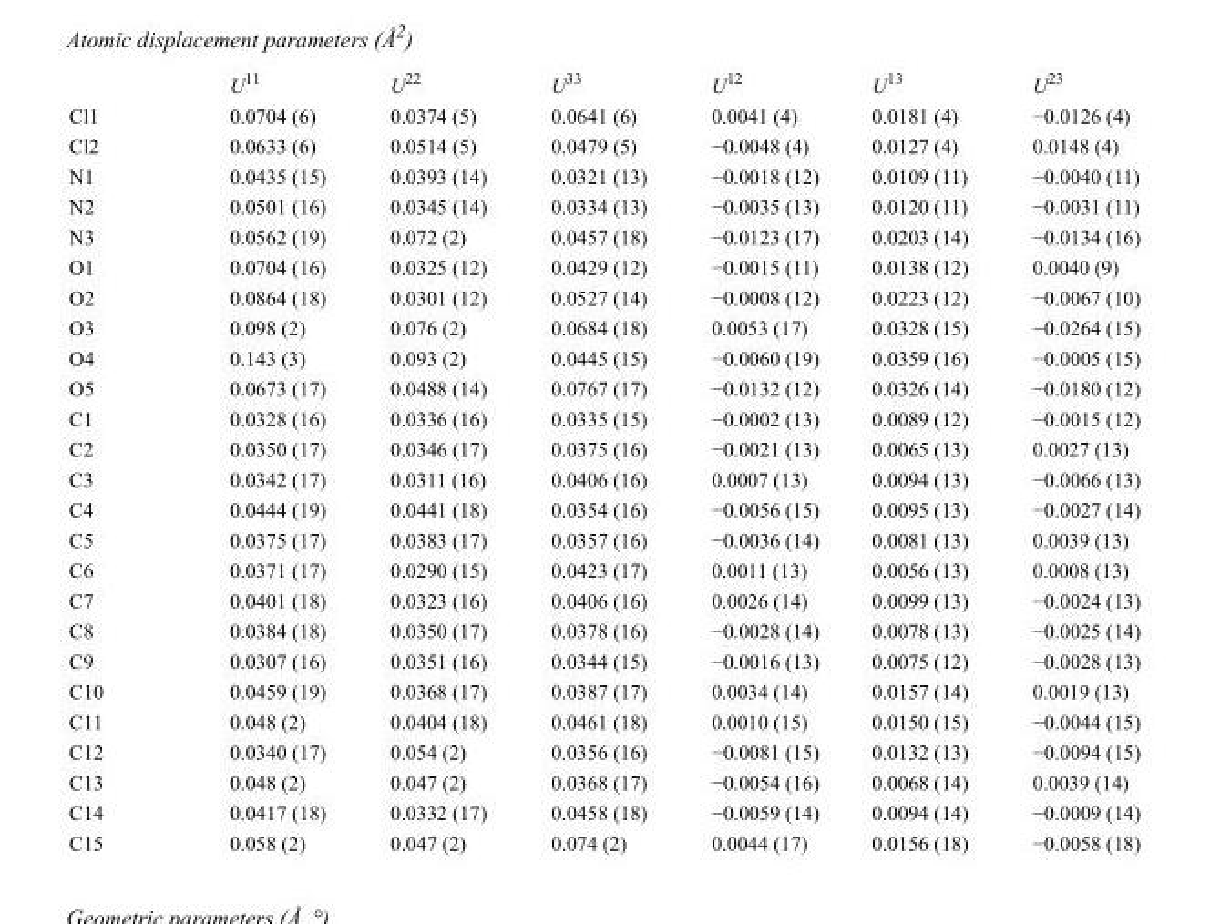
<table><thead><tr><td></td><td>U<sup>11</sup></td><td>U<sup>22</sup></td><td>U<sup>33</sup></td><td>U<sup>12</sup></td><td>U<sup>13</sup></td><td>U<sup>23</sup></td></tr></thead><tbody><tr><td>Cl1</td><td>0.0704 (6)</td><td>0.0374 (5)</td><td>0.0641 (6)</td><td>0.0041 (4)</td><td>0.0181 (4)</td><td>−0.0126 (4)</td></tr><tr><td>Cl2</td><td>0.0633 (6)</td><td>0.0514 (5)</td><td>0.0479 (5)</td><td>−0.0048 (4)</td><td>0.0127 (4)</td><td>0.0148 (4)</td></tr><tr><td>N1</td><td>0.0435 (15)</td><td>0.0393 (14)</td><td>0.0321 (13)</td><td>−0.0018 (12)</td><td>0.0109 (11)</td><td>−0.0040 (11)</td></tr><tr><td>N2</td><td>0.0501 (16)</td><td>0.0345 (14)</td><td>0.0334 (13)</td><td>−0.0035 (13)</td><td>0.0120 (11)</td><td>−0.0031 (11)</td></tr><tr><td>N3</td><td>0.0562 (19)</td><td>0.072 (2)</td><td>0.0457 (18)</td><td>−0.0123 (17)</td><td>0.0203 (14)</td><td>−0.0134 (16)</td></tr><tr><td>O1</td><td>0.0704 (16)</td><td>0.0325 (12)</td><td>0.0429 (12)</td><td>−0.0015 (11)</td><td>0.0138 (12)</td><td>0.0040 (9)</td></tr><tr><td>O2</td><td>0.0864 (18)</td><td>0.0301 (12)</td><td>0.0527 (14)</td><td>−0.0008 (12)</td><td>0.0223 (12)</td><td>−0.0067 (10)</td></tr><tr><td>O3</td><td>0.098 (2)</td><td>0.076 (2)</td><td>0.0684 (18)</td><td>0.0053 (17)</td><td>0.0328 (15)</td><td>−0.0264 (15)</td></tr><tr><td>O4</td><td>0.143 (3)</td><td>0.093 (2)</td><td>0.0445 (15)</td><td>−0.0060 (19)</td><td>0.0359 (16)</td><td>−0.0005 (15)</td></tr><tr><td>O5</td><td>0.0673 (17)</td><td>0.0488 (14)</td><td>0.0767 (17)</td><td>−0.0132 (12)</td><td>0.0326 (14)</td><td>−0.0180 (12)</td></tr><tr><td>C1</td><td>0.0328 (16)</td><td>0.0336 (16)</td><td>0.0335 (15)</td><td>−0.0002 (13)</td><td>0.0089 (12)</td><td>−0.0015 (12)</td></tr><tr><td>C2</td><td>0.0350 (17)</td><td>0.0346 (17)</td><td>0.0375 (16)</td><td>−0.0021 (13)</td><td>0.0065 (13)</td><td>0.0027 (13)</td></tr><tr><td>C3</td><td>0.0342 (17)</td><td>0.0311 (16)</td><td>0.0406 (16)</td><td>0.0007 (13)</td><td>0.0094 (13)</td><td>−0.0066 (13)</td></tr><tr><td>C4</td><td>0.0444 (19)</td><td>0.0441 (18)</td><td>0.0354 (16)</td><td>−0.0056 (15)</td><td>0.0095 (13)</td><td>−0.0027 (14)</td></tr><tr><td>C5</td><td>0.0375 (17)</td><td>0.0383 (17)</td><td>0.0357 (16)</td><td>−0.0036 (14)</td><td>0.0081 (13)</td><td>0.0039 (13)</td></tr><tr><td>C6</td><td>0.0371 (17)</td><td>0.0290 (15)</td><td>0.0423 (17)</td><td>0.0011 (13)</td><td>0.0056 (13)</td><td>0.0008 (13)</td></tr><tr><td>C7</td><td>0.0401 (18)</td><td>0.0323 (16)</td><td>0.0406 (16)</td><td>0.0026 (14)</td><td>0.0099 (13)</td><td>−0.0024 (13)</td></tr><tr><td>C8</td><td>0.0384 (18)</td><td>0.0350 (17)</td><td>0.0378 (16)</td><td>−0.0028 (14)</td><td>0.0078 (13)</td><td>−0.0025 (14)</td></tr><tr><td>C9</td><td>0.0307 (16)</td><td>0.0351 (16)</td><td>0.0344 (15)</td><td>−0.0016 (13)</td><td>0.0075 (12)</td><td>−0.0028 (13)</td></tr><tr><td>C10</td><td>0.0459 (19)</td><td>0.0368 (17)</td><td>0.0387 (17)</td><td>0.0034 (14)</td><td>0.0157 (14)</td><td>0.0019 (13)</td></tr><tr><td>C11</td><td>0.048 (2)</td><td>0.0404 (18)</td><td>0.0461 (18)</td><td>0.0010 (15)</td><td>0.0150 (15)</td><td>−0.0044 (15)</td></tr><tr><td>C12</td><td>0.0340 (17)</td><td>0.054 (2)</td><td>0.0356 (16)</td><td>−0.0081 (15)</td><td>0.0132 (13)</td><td>−0.0094 (15)</td></tr><tr><td>C13</td><td>0.048 (2)</td><td>0.047 (2)</td><td>0.0368 (17)</td><td>−0.0054 (16)</td><td>0.0068 (14)</td><td>0.0039 (14)</td></tr><tr><td>C14</td><td>0.0417 (18)</td><td>0.0332 (17)</td><td>0.0458 (18)</td><td>−0.0059 (14)</td><td>0.0094 (14)</td><td>−0.0009 (14)</td></tr><tr><td>C15</td><td>0.058 (2)</td><td>0.047 (2)</td><td>0.074 (2)</td><td>0.0044 (17)</td><td>0.0156 (18)</td><td>−0.0058 (18)</td></tr></tbody></table>